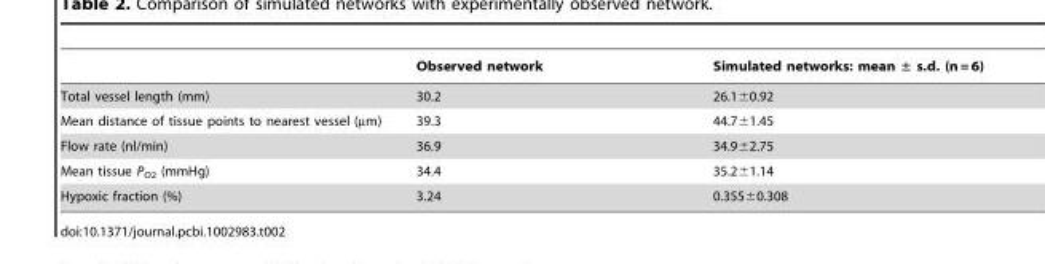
<table><thead><tr><td></td><td>Observed network</td><td>Simulated networks: mean ± s.d. (n = 6)</td></tr></thead><tbody><tr><td>Total vessel length (mm)</td><td>30.2</td><td>26.1±0.92</td></tr><tr><td>Mean distance of tissue points to nearest vessel (µm)</td><td>39.3</td><td>44.7±1.45</td></tr><tr><td>Flow rate (nl/min)</td><td>36.9</td><td>34.9±2.75</td></tr><tr><td>Mean tissue P<sub>O2</sub> (mmHg)</td><td>34.4</td><td>35.2±1.14</td></tr><tr><td>Hypoxic fraction (%)</td><td>3.24</td><td>0.355±0.308</td></tr></tbody></table>